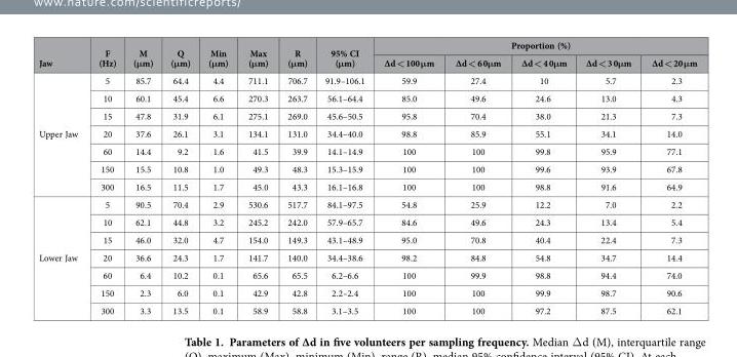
<table><thead><tr><td rowspan="2">Jaw</td><td rowspan="2">F (Hz)</td><td rowspan="2">M (μm)</td><td rowspan="2">Q (μm)</td><td rowspan="2">Min (μm)</td><td rowspan="2">Max (μm)</td><td rowspan="2">R (μm)</td><td rowspan="2">95% CI (μm)</td><td colspan="5">Proportion (%)</td></tr><tr><td>∆d &lt; 100 μm</td><td>∆d &lt; 6 0μm</td><td>∆d &lt; 4 0μm</td><td>∆d &lt; 3 0μm</td><td>∆d &lt; 20 μm</td></tr></thead><tbody><tr><td rowspan="7">Upper Jaw</td><td>5</td><td>85.7</td><td>64.4</td><td>4.4</td><td>711.1</td><td>706.7</td><td>91.9–106.1</td><td>59.9</td><td>27.4</td><td>10</td><td>5.7</td><td>2.3</td></tr><tr><td>10</td><td>60.1</td><td>45.4</td><td>6.6</td><td>270.3</td><td>263.7</td><td>56.1–64.4</td><td>85.0</td><td>49.6</td><td>24.6</td><td>13.0</td><td>4.3</td></tr><tr><td>15</td><td>47.8</td><td>31.9</td><td>6.1</td><td>275.1</td><td>269.0</td><td>45.6–50.5</td><td>95.8</td><td>70.4</td><td>38.0</td><td>21.3</td><td>7.3</td></tr><tr><td>20</td><td>37.6</td><td>26.1</td><td>3.1</td><td>134.1</td><td>131.0</td><td>34.4–40.0</td><td>98.8</td><td>85.9</td><td>55.1</td><td>34.1</td><td>14.0</td></tr><tr><td>60</td><td>14.4</td><td>9.2</td><td>1.6</td><td>41.5</td><td>39.9</td><td>14.1–14.9</td><td>100</td><td>100</td><td>99.8</td><td>95.9</td><td>77.1</td></tr><tr><td>150</td><td>15.5</td><td>10.8</td><td>1.0</td><td>49.3</td><td>48.3</td><td>15.3–15.9</td><td>100</td><td>100</td><td>99.6</td><td>93.9</td><td>67.8</td></tr><tr><td>300</td><td>16.5</td><td>11.5</td><td>1.7</td><td>45.0</td><td>43.3</td><td>16.1–16.8</td><td>100</td><td>100</td><td>98.8</td><td>91.6</td><td>64.9</td></tr><tr><td rowspan="7">Lower Jaw</td><td>5</td><td>90.5</td><td>70.4</td><td>2.9</td><td>530.6</td><td>517.7</td><td>84.1–97.5</td><td>54.8</td><td>25.9</td><td>12.2</td><td>7.0</td><td>2.2</td></tr><tr><td>10</td><td>62.1</td><td>44.8</td><td>3.2</td><td>245.2</td><td>242.0</td><td>57.9–65.7</td><td>84.6</td><td>49.6</td><td>24.3</td><td>13.4</td><td>5.4</td></tr><tr><td>15</td><td>46.0</td><td>32.0</td><td>4.7</td><td>154.0</td><td>149.3</td><td>43.1–48.9</td><td>95.0</td><td>70.8</td><td>40.4</td><td>22.4</td><td>7.3</td></tr><tr><td>20</td><td>36.6</td><td>24.3</td><td>1.7</td><td>141.7</td><td>140.0</td><td>34.4–38.6</td><td>98.2</td><td>84.8</td><td>54.8</td><td>34.7</td><td>14.4</td></tr><tr><td>60</td><td>6.4</td><td>10.2</td><td>0.1</td><td>65.6</td><td>65.5</td><td>6.2–6.6</td><td>100</td><td>99.9</td><td>98.8</td><td>94.4</td><td>74.0</td></tr><tr><td>150</td><td>2.3</td><td>6.0</td><td>0.1</td><td>42.9</td><td>42.8</td><td>2.2–2.4</td><td>100</td><td>100</td><td>99.9</td><td>98.7</td><td>90.6</td></tr><tr><td>300</td><td>3.3</td><td>13.5</td><td>0.1</td><td>58.9</td><td>58.8</td><td>3.1–3.5</td><td>100</td><td>100</td><td>97.2</td><td>87.5</td><td>62.1</td></tr></tbody></table>